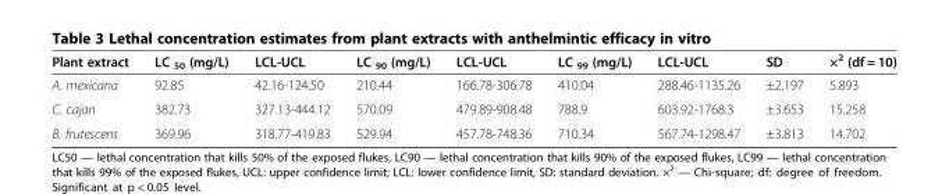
<table><thead><tr><td>Plant extract</td><td>LC <sub>50</sub> (mg/L)</td><td>LCL-UCL</td><td>LC <sub>90</sub> (mg/L)</td><td>LCL-UCL</td><td>LC <sub>99</sub> (mg/L)</td><td>LCL-UCL</td><td>SD</td><td>×<sup>2</sup> (df = 10)</td></tr></thead><tbody><tr><td>A. mexicana</td><td>92.85</td><td>42.16-124.50</td><td>210.44</td><td>166.78-306.78</td><td>410.04</td><td>288.46-1135.26</td><td>±2.197</td><td>5.893</td></tr><tr><td>C. cajan</td><td>382.73</td><td>327.13-444.12</td><td>570.09</td><td>479.89-908.48</td><td>788.9</td><td>603.92-1768.3</td><td>±3.653</td><td>15.258</td></tr><tr><td>B. frutescens</td><td>369.96</td><td>318.77-419.83</td><td>529.94</td><td>457.78-748.36</td><td>710.34</td><td>567.74-1298.47</td><td>±3.813</td><td>14.702</td></tr></tbody></table>